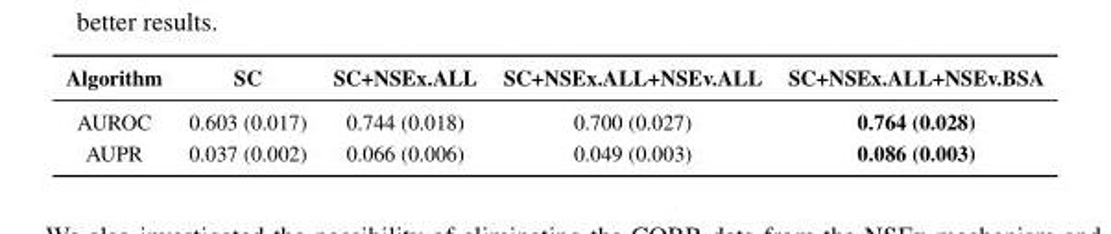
<table><thead><tr><td>Algorithm</td><td>SC</td><td>SC+NSEx.ALL</td><td>SC+NSEx.ALL+NSEv.ALL</td><td>SC+NSEx.ALL+NSEv.BSA</td></tr></thead><tbody><tr><td>AUROC</td><td>0.603 (0.017)</td><td>0.744 (0.018)</td><td>0.700 (0.027)</td><td>0.764 (0.028)</td></tr><tr><td>AUPR</td><td>0.037 (0.002)</td><td>0.066 (0.006)</td><td>0.049 (0.003)</td><td>0.086 (0.003)</td></tr></tbody></table>